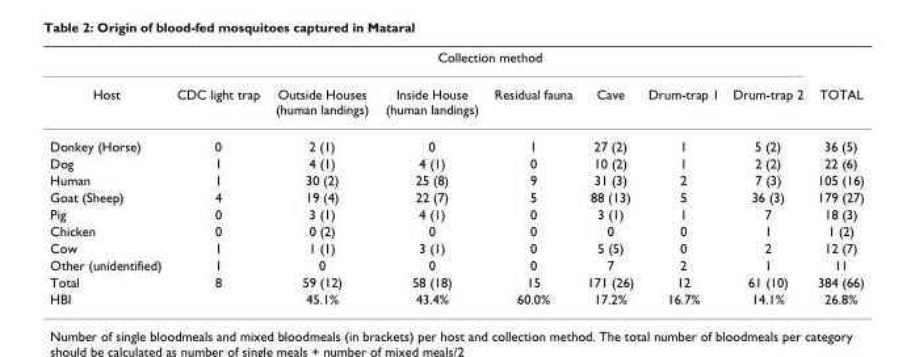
<table><thead><tr><td rowspan="2">Host</td><td colspan="7">Collection method</td><td rowspan="2">TOTAL</td></tr><tr><td>CDC light trap</td><td>Outside Houses (human landings)</td><td>Inside House (human landings)</td><td>Residual fauna</td><td>Cave</td><td>Drum-trap 1</td><td>Drum-trap 2</td></tr></thead><tbody><tr><td>Donkey (Horse)</td><td>0</td><td>2 (1)</td><td>0</td><td>1</td><td>27 (2)</td><td>1</td><td>5 (2)</td><td>36 (5)</td></tr><tr><td>Dog</td><td>1</td><td>4 (1)</td><td>4 (1)</td><td>0</td><td>10 (2)</td><td>1</td><td>2 (2)</td><td>22 (6)</td></tr><tr><td>Human</td><td>1</td><td>30 (2)</td><td>25 (8)</td><td>9</td><td>31 (3)</td><td>2</td><td>7 (3)</td><td>105 (16)</td></tr><tr><td>Goat (Sheep)</td><td>4</td><td>19 (4)</td><td>22 (7)</td><td>5</td><td>88 (13)</td><td>5</td><td>36 (3)</td><td>179 (27)</td></tr><tr><td>Pig</td><td>0</td><td>3 (1)</td><td>4 (1)</td><td>0</td><td>3 (1)</td><td>1</td><td>7</td><td>18 (3)</td></tr><tr><td>Chicken</td><td>0</td><td>0 (2)</td><td>0</td><td>0</td><td>0</td><td>0</td><td>1</td><td>1 (2)</td></tr><tr><td>Cow</td><td>1</td><td>1 (1)</td><td>3 (1)</td><td>0</td><td>5 (5)</td><td>0</td><td>2</td><td>12 (7)</td></tr><tr><td>Other (unidentified)</td><td>1</td><td>0</td><td>0</td><td>0</td><td>7</td><td>2</td><td>1</td><td>11</td></tr><tr><td>Total</td><td>8</td><td>59 (12)</td><td>58 (18)</td><td>15</td><td>171 (26)</td><td>12</td><td>61 (10)</td><td>384 (66)</td></tr><tr><td>HBI</td><td></td><td>45.1%</td><td>43.4%</td><td>60.0%</td><td>17.2%</td><td>16.7%</td><td>14.1%</td><td>26.8%</td></tr></tbody></table>